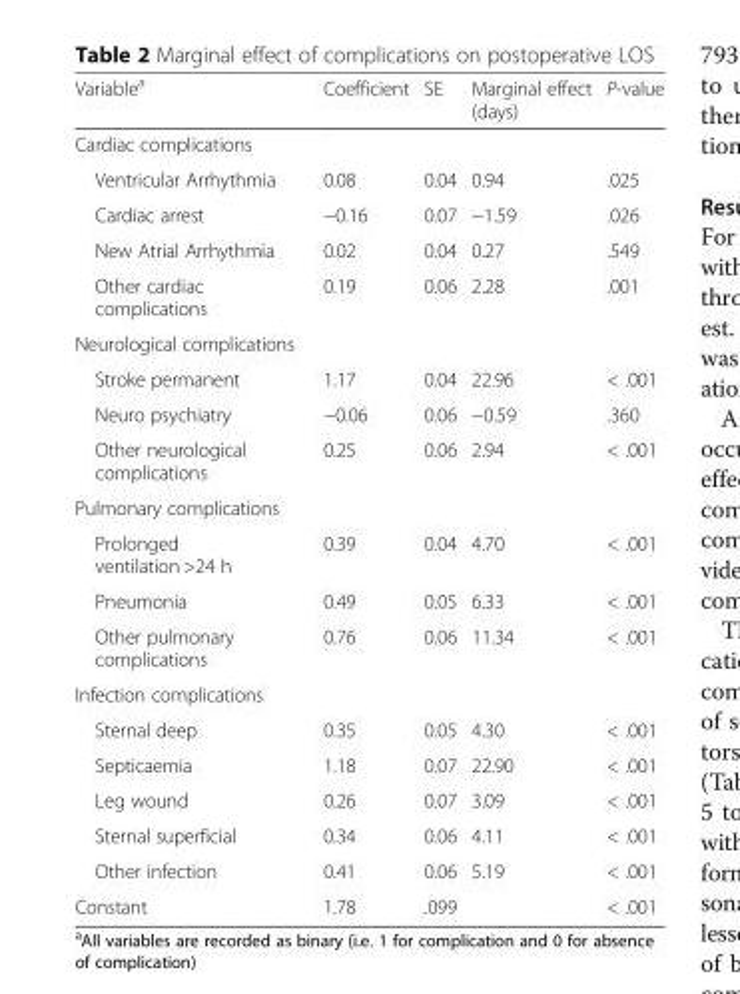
<table><thead><tr><td>Variable<sup>a</sup></td><td>Coefficient</td><td>SE</td><td>Marginal effect (days)</td><td>P-value</td></tr></thead><tbody><tr><td colspan="5">Cardiac complications</td></tr><tr><td>Ventricular Arrhythmia</td><td>0.08</td><td>0.04</td><td>0.94</td><td>.025</td></tr><tr><td>Cardiac arrest</td><td>−0.16</td><td>0.07</td><td>−1.59</td><td>.026</td></tr><tr><td>New Atrial Arrhythmia</td><td>0.02</td><td>0.04</td><td>0.27</td><td>.549</td></tr><tr><td>Other cardiac complications</td><td>0.19</td><td>0.06</td><td>2.28</td><td>.001</td></tr><tr><td colspan="5">Neurological complications</td></tr><tr><td>Stroke permanent</td><td>1.17</td><td>0.04</td><td>22.96</td><td>&lt; .001</td></tr><tr><td>Neuro psychiatry</td><td>−0.06</td><td>0.06</td><td>−0.59</td><td>.360</td></tr><tr><td>Other neurological complications</td><td>0.25</td><td>0.06</td><td>2.94</td><td>&lt; .001</td></tr><tr><td colspan="5">Pulmonary complications</td></tr><tr><td>Prolonged ventilation &gt;24 h</td><td>0.39</td><td>0.04</td><td>4.70</td><td>&lt; .001</td></tr><tr><td>Pneumonia</td><td>0.49</td><td>0.05</td><td>6.33</td><td>&lt; .001</td></tr><tr><td>Other pulmonary complications</td><td>0.76</td><td>0.06</td><td>11.34</td><td>&lt; .001</td></tr><tr><td colspan="5">Infection complications</td></tr><tr><td>Sternal deep</td><td>0.35</td><td>0.05</td><td>4.30</td><td>&lt; .001</td></tr><tr><td>Septicaemia</td><td>1.18</td><td>0.07</td><td>22.90</td><td>&lt; .001</td></tr><tr><td>Leg wound</td><td>0.26</td><td>0.07</td><td>3.09</td><td>&lt; .001</td></tr><tr><td>Sternal superficial</td><td>0.34</td><td>0.06</td><td>4.11</td><td>&lt; .001</td></tr><tr><td>Other infection</td><td>0.41</td><td>0.06</td><td>5.19</td><td>&lt; .001</td></tr><tr><td>Constant</td><td>1.78</td><td>.099</td><td></td><td>&lt; .001</td></tr></tbody></table>